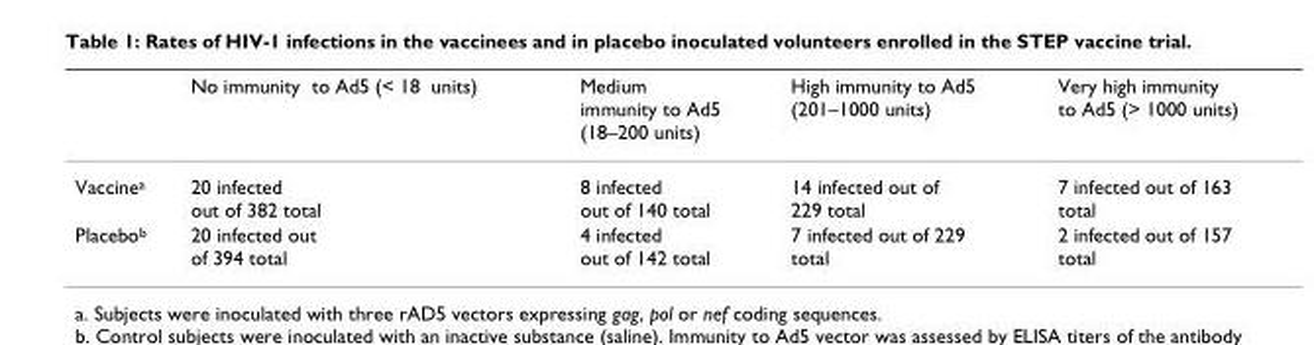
<table><thead><tr><td></td><td>No immunity to Ad5 (&lt; 18 units)</td><td>Medium immunity to Ad5 (18–200 units)</td><td>High immunity to Ad5 (201–1000 units)</td><td>Very high immunity to Ad5 (&gt; 1000 units)</td></tr></thead><tbody><tr><td>Vaccine<sup>a</sup></td><td>20 infected out of 382 total</td><td>8 infected out of 140 total</td><td>14 infected out of 229 total</td><td>7 infected out of 163 total</td></tr><tr><td>Placebo<sup>b</sup></td><td>20 infected out of 394 total</td><td>4 infected out of 142 total</td><td>7 infected out of 229 total</td><td>2 infected out of 157 total</td></tr></tbody></table>